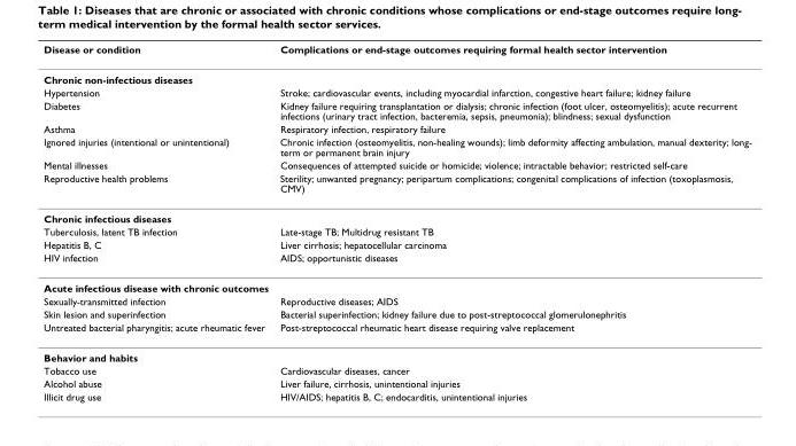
<table><thead><tr><td>Disease or condition</td><td>Complications or end-stage outcomes requiring formal health sector intervention</td></tr></thead><tbody><tr><td colspan="2">Chronic non-infectious diseases</td></tr><tr><td>Hypertension</td><td>Stroke; cardiovascular events, including myocardial infarction, congestive heart failure; kidney failure</td></tr><tr><td>Diabetes</td><td>Kidney failure requiring transplantation or dialysis; chronic infection (foot ulcer, osteomyelitis); acute recurrent infections (urinary tract infection, bacteremia, sepsis, pneumonia); blindness; sexual dysfunction</td></tr><tr><td>Asthma</td><td>Respiratory infection, respiratory failure</td></tr><tr><td>Ignored injuries (intentional or unintentional)</td><td>Chronic infection (osteomyelitis, non-healing wounds); limb deformity affecting ambulation, manual dexterity; long- term or permanent brain injury</td></tr><tr><td>Mental illnesses</td><td>Consequences of attempted suicide or homicide; violence; intractable behavior; restricted self-care</td></tr><tr><td>Reproductive health problems</td><td>Sterility; unwanted pregnancy; peripartum complications; congenital complications of infection (toxoplasmosis, CMV)</td></tr><tr><td colspan="2">Chronic infectious diseases</td></tr><tr><td>Tuberculosis, latent TB infection</td><td>Late-stage TB; Multidrug resistant TB</td></tr><tr><td>Hepatitis B, C</td><td>Liver cirrhosis; hepatocellular carcinoma</td></tr><tr><td>HIV infection</td><td>AIDS; opportunistic diseases</td></tr><tr><td colspan="2">Acute infectious disease with chronic outcomes</td></tr><tr><td>Sexually-transmitted infection</td><td>Reproductive diseases; AIDS</td></tr><tr><td>Skin lesion and superinfection</td><td>Bacterial superinfection; kidney failure due to post-streptococcal glomerulonephritis</td></tr><tr><td>Untreated bacterial pharyngitis; acute rheumatic fever</td><td>Post-streptococcal rheumatic heart disease requiring valve replacement</td></tr><tr><td colspan="2">Behavior and habits</td></tr><tr><td>Tobacco use</td><td>Cardiovascular diseases, cancer</td></tr><tr><td>Alcohol abuse</td><td>Liver failure, cirrhosis, unintentional injuries</td></tr><tr><td>Illicit drug use</td><td>HIV/AIDS; hepatitis B, C; endocarditis, unintentional injuries</td></tr></tbody></table>